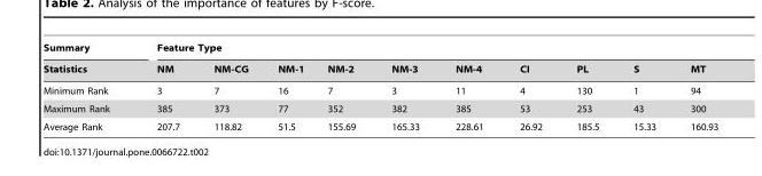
<table><thead><tr><td rowspan="2">Summary Statistics</td><td colspan="10">Feature Type</td></tr><tr><td>NM</td><td>NM-CG</td><td>NM-1</td><td>NM-2</td><td>NM-3</td><td>NM-4</td><td>CI</td><td>PL</td><td>S</td><td>MT</td></tr></thead><tbody><tr><td>Minimum Rank</td><td>3</td><td>7</td><td>16</td><td>7</td><td>3</td><td>11</td><td>4</td><td>130</td><td>1</td><td>94</td></tr><tr><td>Maximum Rank</td><td>385</td><td>373</td><td>77</td><td>352</td><td>382</td><td>385</td><td>53</td><td>253</td><td>43</td><td>300</td></tr><tr><td>Average Rank</td><td>207.7</td><td>118.82</td><td>51.5</td><td>155.69</td><td>165.33</td><td>228.61</td><td>26.92</td><td>185.5</td><td>15.33</td><td>160.93</td></tr></tbody></table>